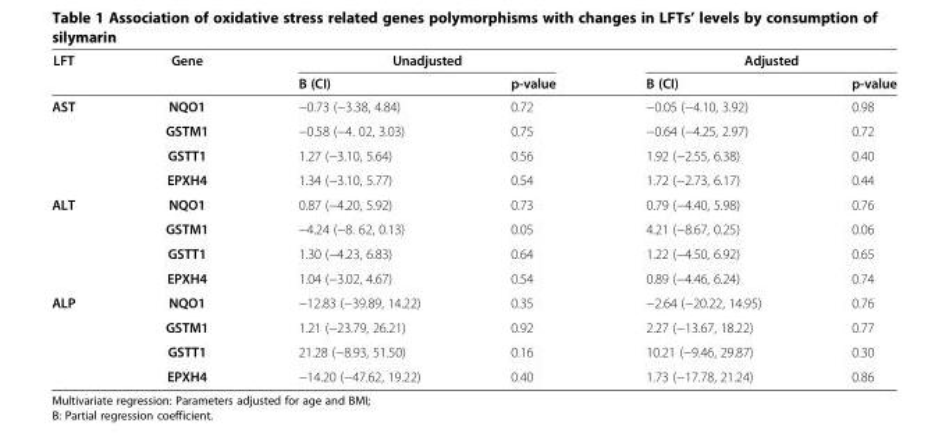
<table><thead><tr><td rowspan="2">LFT</td><td rowspan="2">Gene</td><td rowspan="2">Unadjusted B (CI)</td><td rowspan="2">p-value</td><td rowspan="2">Adjusted B (CI)</td><td rowspan="2">p-value</td></tr><tr></tr></thead><tbody><tr><td rowspan="4">AST</td><td>NQO1</td><td>−0.73 (−3.38, 4.84)</td><td>0.72</td><td>−0.05 (−4.10, 3.92)</td><td>0.98</td></tr><tr><td>GSTM1</td><td>−0.58 (−4. 02, 3.03)</td><td>0.75</td><td>−0.64 (−4.25, 2.97)</td><td>0.72</td></tr><tr><td>GSTT1</td><td>1.27 (−3.10, 5.64)</td><td>0.56</td><td>1.92 (−2.55, 6.38)</td><td>0.40</td></tr><tr><td>EPXH4</td><td>1.34 (−3.10, 5.77)</td><td>0.54</td><td>1.72 (−2.73, 6.17)</td><td>0.44</td></tr><tr><td rowspan="4">ALT</td><td>NQO1</td><td>0.87 (−4.20, 5.92)</td><td>0.73</td><td>0.79 (−4.40, 5.98)</td><td>0.76</td></tr><tr><td>GSTM1</td><td>−4.24 (−8. 62, 0.13)</td><td>0.05</td><td>4.21 (−8.67, 0.25)</td><td>0.06</td></tr><tr><td>GSTT1</td><td>1.30 (−4.23, 6.83)</td><td>0.64</td><td>1.22 (−4.50, 6.92)</td><td>0.65</td></tr><tr><td>EPXH4</td><td>1.04 (−3.02, 4.67)</td><td>0.54</td><td>0.89 (−4.46, 6.24)</td><td>0.74</td></tr><tr><td rowspan="4">ALP</td><td>NQO1</td><td>−12.83 (−39.89, 14.22)</td><td>0.35</td><td>−2.64 (−20.22, 14.95)</td><td>0.76</td></tr><tr><td>GSTM1</td><td>1.21 (−23.79, 26.21)</td><td>0.92</td><td>2.27 (−13.67, 18.22)</td><td>0.77</td></tr><tr><td>GSTT1</td><td>21.28 (−8.93, 51.50)</td><td>0.16</td><td>10.21 (−9.46, 29.87)</td><td>0.30</td></tr><tr><td>EPXH4</td><td>−14.20 (−47.62, 19.22)</td><td>0.40</td><td>1.73 (−17.78, 21.24)</td><td>0.86</td></tr></tbody></table>